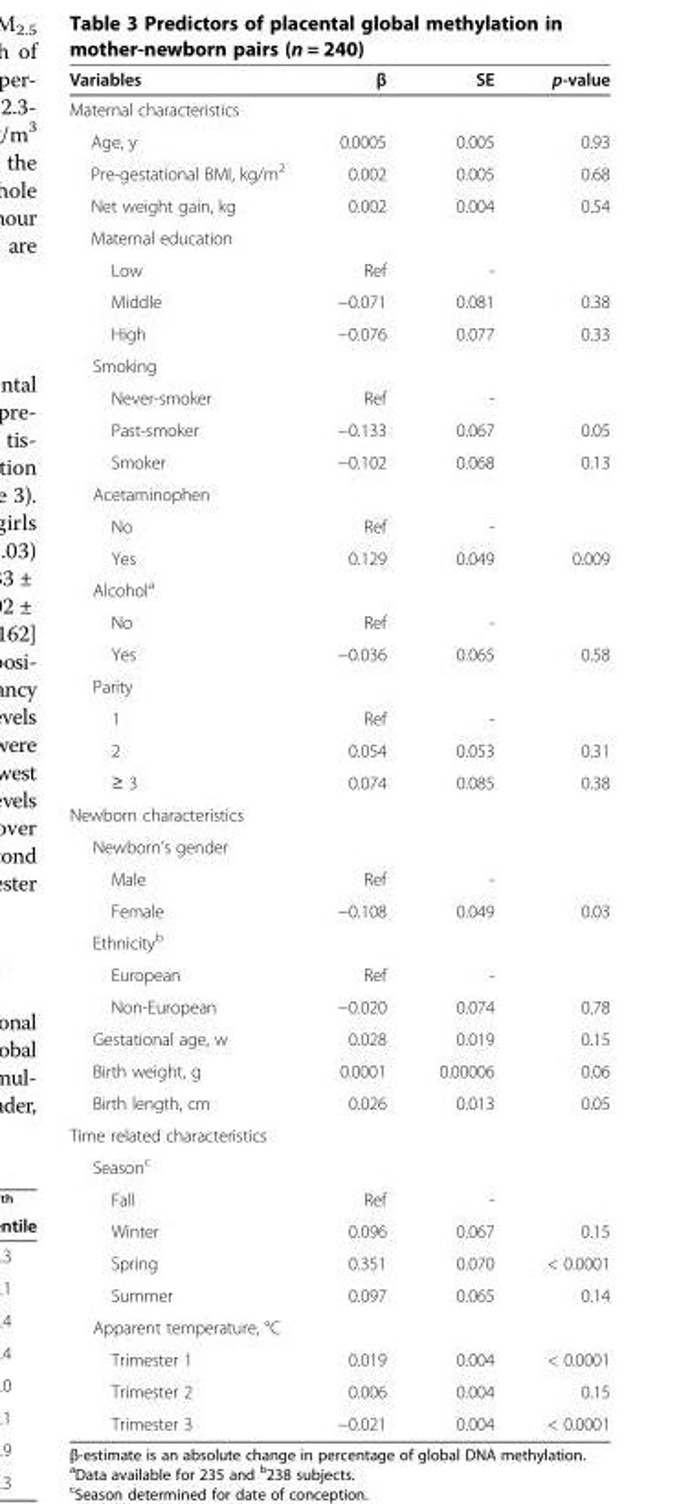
<table><thead><tr><td>Variables</td><td>β</td><td>SE</td><td>p-value</td></tr></thead><tbody><tr><td colspan="4">Maternal characteristics</td></tr><tr><td>Age, y</td><td>0.0005</td><td>0.005</td><td>0.93</td></tr><tr><td>Pre-gestational BMI, kg/m<sup>2</sup></td><td>0.002</td><td>0.005</td><td>0.68</td></tr><tr><td>Net weight gain, kg</td><td>0.002</td><td>0.004</td><td>0.54</td></tr><tr><td colspan="4">Maternal education</td></tr><tr><td>Low</td><td>Ref</td><td>-</td><td></td></tr><tr><td>Middle</td><td>−0.071</td><td>0.081</td><td>0.38</td></tr><tr><td>High</td><td>−0.076</td><td>0.077</td><td>0.33</td></tr><tr><td colspan="4">Smoking</td></tr><tr><td>Never-smoker</td><td>Ref</td><td>-</td><td></td></tr><tr><td>Past-smoker</td><td>−0.133</td><td>0.067</td><td>0.05</td></tr><tr><td>Smoker</td><td>−0.102</td><td>0.068</td><td>0.13</td></tr><tr><td colspan="4">Acetaminophen</td></tr><tr><td>No</td><td>Ref</td><td>-</td><td></td></tr><tr><td>Yes</td><td>0.129</td><td>0.049</td><td>0.009</td></tr><tr><td colspan="4">Alcohol<sup>a</sup></td></tr><tr><td>No</td><td>Ref</td><td>-</td><td></td></tr><tr><td>Yes</td><td>−0.036</td><td>0.065</td><td>0.58</td></tr><tr><td colspan="4">Parity</td></tr><tr><td>1</td><td>Ref</td><td>-</td><td></td></tr><tr><td>2</td><td>0.054</td><td>0.053</td><td>0.31</td></tr><tr><td>≥ 3</td><td>0.074</td><td>0.085</td><td>0.38</td></tr><tr><td colspan="4">Newborn characteristics</td></tr><tr><td colspan="4">Newborn’s gender</td></tr><tr><td>Male</td><td>Ref</td><td>-</td><td></td></tr><tr><td>Female</td><td>−0.108</td><td>0.049</td><td>0.03</td></tr><tr><td colspan="4">Ethnicity<sup>b</sup></td></tr><tr><td>European</td><td>Ref</td><td>-</td><td></td></tr><tr><td>Non-European</td><td>−0.020</td><td>0.074</td><td>0.78</td></tr><tr><td>Gestational age, w</td><td>0.028</td><td>0.019</td><td>0.15</td></tr><tr><td>Birth weight, g</td><td>0.0001</td><td>0.00006</td><td>0.06</td></tr><tr><td>Birth length, cm</td><td>0.026</td><td>0.013</td><td>0.05</td></tr><tr><td colspan="4">Time related characteristics</td></tr><tr><td colspan="4">Season<sup>c</sup></td></tr><tr><td>Fall</td><td>Ref</td><td>-</td><td></td></tr><tr><td>Winter</td><td>0.096</td><td>0.067</td><td>0.15</td></tr><tr><td>Spring</td><td>0.351</td><td>0.070</td><td>&lt; 0.0001</td></tr><tr><td>Summer</td><td>0.097</td><td>0.065</td><td>0.14</td></tr><tr><td colspan="4">Apparent temperature, °C</td></tr><tr><td>Trimester 1</td><td>0.019</td><td>0.004</td><td>&lt; 0.0001</td></tr><tr><td>Trimester 2</td><td>0.006</td><td>0.004</td><td>0.15</td></tr><tr><td>Trimester 3</td><td>−0.021</td><td>0.004</td><td>&lt; 0.0001</td></tr></tbody></table>